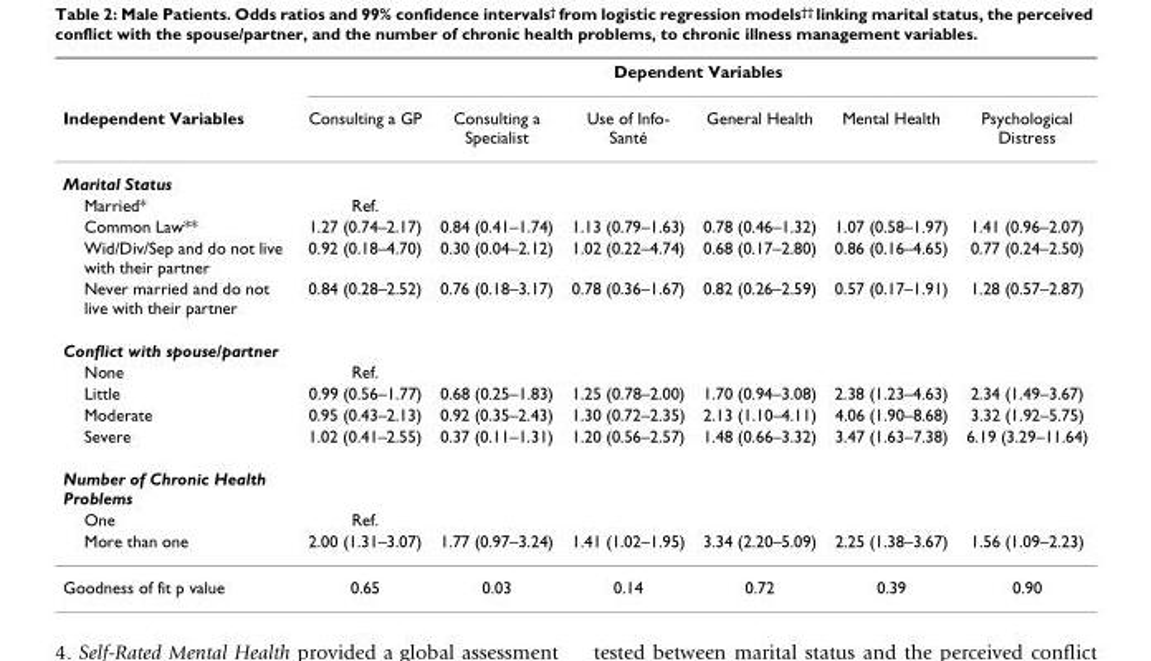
<table><thead><tr><td rowspan="2">Independent Variables</td><td colspan="6">Dependent Variables</td></tr><tr><td>Consulting a GP</td><td>Consulting a Specialist</td><td>Use of Info- Santé</td><td>General Health</td><td>Mental Health</td><td>Psychological Distress</td></tr></thead><tbody><tr><td colspan="7">Marital Status</td></tr><tr><td>Married*</td><td>Ref.</td><td></td><td></td><td></td><td></td><td></td></tr><tr><td>Common Law**</td><td>1.27 (0.74–2.17)</td><td>0.84 (0.41–1.74)</td><td>1.13 (0.79–1.63)</td><td>0.78 (0.46–1.32)</td><td>1.07 (0.58–1.97)</td><td>1.41 (0.96–2.07)</td></tr><tr><td>Wid/Div/Sep and do not live with their partner</td><td>0.92 (0.18–4.70)</td><td>0.30 (0.04–2.12)</td><td>1.02 (0.22–4.74)</td><td>0.68 (0.17–2.80)</td><td>0.86 (0.16–4.65)</td><td>0.77 (0.24–2.50)</td></tr><tr><td>Never married and do not live with their partner</td><td>0.84 (0.28–2.52)</td><td>0.76 (0.18–3.17)</td><td>0.78 (0.36–1.67)</td><td>0.82 (0.26–2.59)</td><td>0.57 (0.17–1.91)</td><td>1.28 (0.57–2.87)</td></tr><tr><td colspan="7">Conflict with spouse/partner</td></tr><tr><td>None</td><td>Ref.</td><td></td><td></td><td></td><td></td><td></td></tr><tr><td>Little</td><td>0.99 (0.56–1.77)</td><td>0.68 (0.25–1.83)</td><td>1.25 (0.78–2.00)</td><td>1.70 (0.94–3.08)</td><td>2.38 (1.23–4.63)</td><td>2.34 (1.49–3.67)</td></tr><tr><td>Moderate</td><td>0.95 (0.43–2.13)</td><td>0.92 (0.35–2.43)</td><td>1.30 (0.72–2.35)</td><td>2.13 (1.10–4.11)</td><td>4.06 (1.90–8.68)</td><td>3.32 (1.92–5.75)</td></tr><tr><td>Severe</td><td>1.02 (0.41–2.55)</td><td>0.37 (0.11–1.31)</td><td>1.20 (0.56–2.57)</td><td>1.48 (0.66–3.32)</td><td>3.47 (1.63–7.38)</td><td>6.19 (3.29–11.64)</td></tr><tr><td colspan="7">Number of Chronic Health Problems</td></tr><tr><td>One</td><td>Ref.</td><td></td><td></td><td></td><td></td><td></td></tr><tr><td>More than one</td><td>2.00 (1.31–3.07)</td><td>1.77 (0.97–3.24)</td><td>1.41 (1.02–1.95)</td><td>3.34 (2.20–5.09)</td><td>2.25 (1.38–3.67)</td><td>1.56 (1.09–2.23)</td></tr><tr><td>Goodness of fit p value</td><td>0.65</td><td>0.03</td><td>0.14</td><td>0.72</td><td>0.39</td><td>0.90</td></tr></tbody></table>